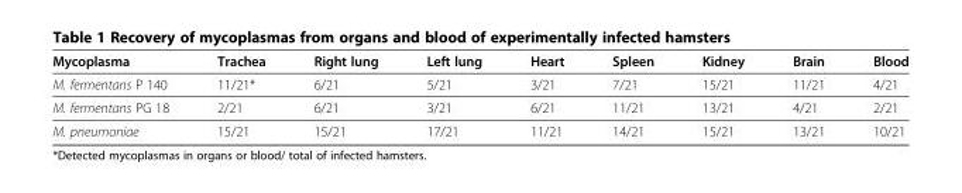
<table><thead><tr><td>Mycoplasma</td><td>Trachea</td><td>Right lung</td><td>Left lung</td><td>Heart</td><td>Spleen</td><td>Kidney</td><td>Brain</td><td>Blood</td></tr></thead><tbody><tr><td>M. fermentans P 140</td><td>11/21*</td><td>6/21</td><td>5/21</td><td>3/21</td><td>7/21</td><td>15/21</td><td>11/21</td><td>4/21</td></tr><tr><td>M. fermentans PG 18</td><td>2/21</td><td>6/21</td><td>3/21</td><td>6/21</td><td>11/21</td><td>13/21</td><td>4/21</td><td>2/21</td></tr><tr><td>M. pneumoniae</td><td>15/21</td><td>15/21</td><td>17/21</td><td>11/21</td><td>14/21</td><td>15/21</td><td>13/21</td><td>10/21</td></tr></tbody></table>